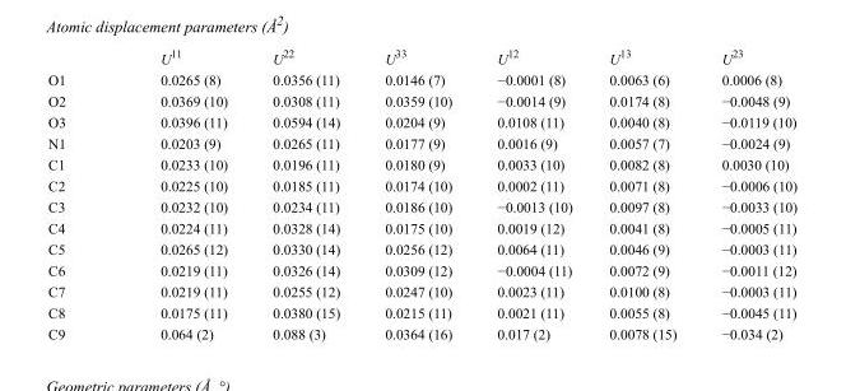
<table><thead><tr><td></td><td>U<sup>11</sup></td><td>U<sup>22</sup></td><td>U<sup>33</sup></td><td>U<sup>12</sup></td><td>U<sup>13</sup></td><td>U<sup>23</sup></td></tr></thead><tbody><tr><td>O1</td><td>0.0265 (8)</td><td>0.0356 (11)</td><td>0.0146 (7)</td><td>−0.0001 (8)</td><td>0.0063 (6)</td><td>0.0006 (8)</td></tr><tr><td>O2</td><td>0.0369 (10)</td><td>0.0308 (11)</td><td>0.0359 (10)</td><td>−0.0014 (9)</td><td>0.0174 (8)</td><td>−0.0048 (9)</td></tr><tr><td>O3</td><td>0.0396 (11)</td><td>0.0594 (14)</td><td>0.0204 (9)</td><td>0.0108 (11)</td><td>0.0040 (8)</td><td>−0.0119 (10)</td></tr><tr><td>N1</td><td>0.0203 (9)</td><td>0.0265 (11)</td><td>0.0177 (9)</td><td>0.0016 (9)</td><td>0.0057 (7)</td><td>−0.0024 (9)</td></tr><tr><td>C1</td><td>0.0233 (10)</td><td>0.0196 (11)</td><td>0.0180 (9)</td><td>0.0033 (10)</td><td>0.0082 (8)</td><td>0.0030 (10)</td></tr><tr><td>C2</td><td>0.0225 (10)</td><td>0.0185 (11)</td><td>0.0174 (10)</td><td>0.0002 (11)</td><td>0.0071 (8)</td><td>−0.0006 (10)</td></tr><tr><td>C3</td><td>0.0232 (10)</td><td>0.0234 (11)</td><td>0.0186 (10)</td><td>−0.0013 (10)</td><td>0.0097 (8)</td><td>−0.0033 (10)</td></tr><tr><td>C4</td><td>0.0224 (11)</td><td>0.0328 (14)</td><td>0.0175 (10)</td><td>0.0019 (12)</td><td>0.0041 (8)</td><td>−0.0005 (11)</td></tr><tr><td>C5</td><td>0.0265 (12)</td><td>0.0330 (14)</td><td>0.0256 (12)</td><td>0.0064 (11)</td><td>0.0046 (9)</td><td>−0.0003 (11)</td></tr><tr><td>C6</td><td>0.0219 (11)</td><td>0.0326 (14)</td><td>0.0309 (12)</td><td>−0.0004 (11)</td><td>0.0072 (9)</td><td>−0.0011 (12)</td></tr><tr><td>C7</td><td>0.0219 (11)</td><td>0.0255 (12)</td><td>0.0247 (10)</td><td>0.0023 (11)</td><td>0.0100 (8)</td><td>−0.0003 (11)</td></tr><tr><td>C8</td><td>0.0175 (11)</td><td>0.0380 (15)</td><td>0.0215 (11)</td><td>0.0021 (11)</td><td>0.0055 (8)</td><td>−0.0045 (11)</td></tr><tr><td>C9</td><td>0.064 (2)</td><td>0.088 (3)</td><td>0.0364 (16)</td><td>0.017 (2)</td><td>0.0078 (15)</td><td>−0.034 (2)</td></tr></tbody></table>